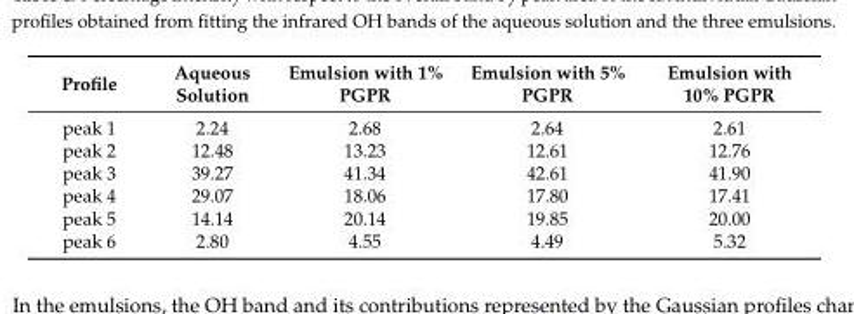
<table><thead><tr><td>Profile</td><td>Aqueous Solution</td><td>Emulsion with 1% PGPR</td><td>Emulsion with 5% PGPR</td><td>Emulsion with 10% PGPR</td></tr></thead><tbody><tr><td>peak 1</td><td>2.24</td><td>2.68</td><td>2.64</td><td>2.61</td></tr><tr><td>peak 2</td><td>12.48</td><td>13.23</td><td>12.61</td><td>12.76</td></tr><tr><td>peak 3</td><td>39.27</td><td>41.34</td><td>42.61</td><td>41.90</td></tr><tr><td>peak 4</td><td>29.07</td><td>18.06</td><td>17.80</td><td>17.41</td></tr><tr><td>peak 5</td><td>14.14</td><td>20.14</td><td>19.85</td><td>20.00</td></tr><tr><td>peak 6</td><td>2.80</td><td>4.55</td><td>4.49</td><td>5.32</td></tr></tbody></table>